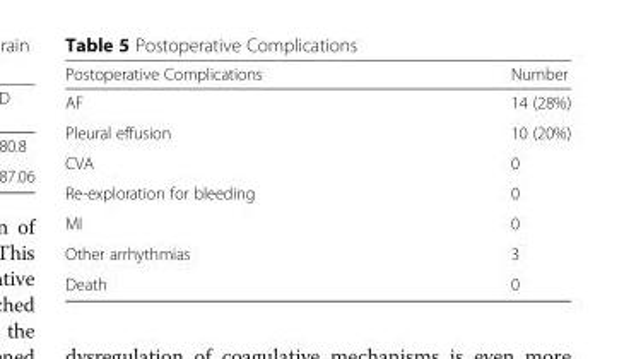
<table><thead><tr><td>Postoperative Complications</td><td>Number</td></tr></thead><tbody><tr><td>AF</td><td>14 (28%)</td></tr><tr><td>Pleural effusion</td><td>10 (20%)</td></tr><tr><td>CVA</td><td>0</td></tr><tr><td>Re-exploration for bleeding</td><td>0</td></tr><tr><td>MI</td><td>0</td></tr><tr><td>Other arrhythmias</td><td>3</td></tr><tr><td>Death</td><td>0</td></tr></tbody></table>